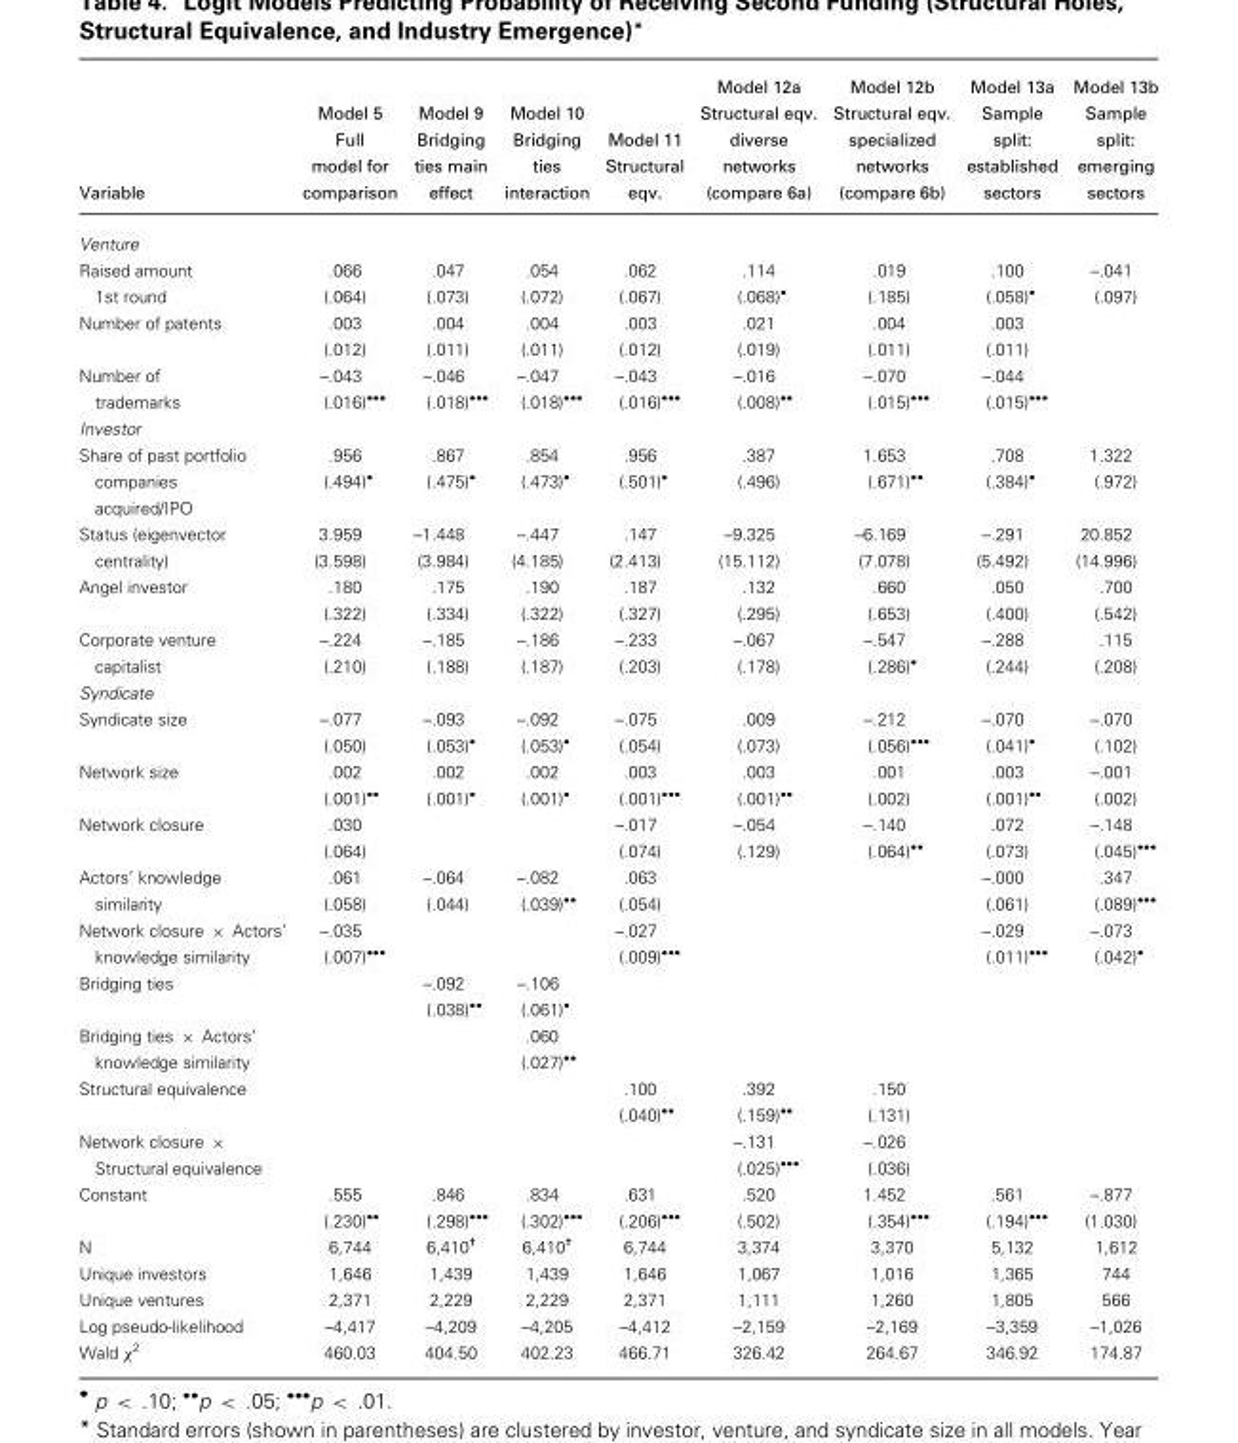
<table><thead><tr><td>Variable</td><td>Model 5 Full model for comparison</td><td>Model 9 Bridging ties main effect</td><td>Model 10 Bridging ties interaction</td><td>Model 11 Structural eqv.</td><td>Model 12a Structural eqv. diverse networks (compare 6a)</td><td>Model 12b Structural eqv. specialized networks (compare 6b)</td><td>Model 13a Sample split: established sectors</td><td>Model 13b Sample split: emerging sectors</td></tr></thead><tbody><tr><td colspan="9">Venture</td></tr><tr><td rowspan="2">Raised amount 1st round</td><td>.066</td><td>.047</td><td>.054</td><td>.062</td><td>.114</td><td>.019</td><td>.100</td><td>–.041</td></tr><tr><td>(.064)</td><td>(.073)</td><td>(.072)</td><td>(.067)</td><td>(.068)<sup>•</sup></td><td>(.185)</td><td>(.058)<sup>•</sup></td><td>(.097)</td></tr><tr><td rowspan="2">Number of patents</td><td>.003</td><td>.004</td><td>.004</td><td>.003</td><td>.021</td><td>.004</td><td>.003</td><td></td></tr><tr><td>(.012)</td><td>(.011)</td><td>(.011)</td><td>(.012)</td><td>(.019)</td><td>(.011)</td><td>(.011)</td><td></td></tr><tr><td rowspan="2">Number of trademarks</td><td>–.043</td><td>–.046</td><td>–.047</td><td>–.043</td><td>–.016</td><td>–.070</td><td>–.044</td><td></td></tr><tr><td>(.016)<sup>•••</sup></td><td>(.018)<sup>•••</sup></td><td>(.018)<sup>•••</sup></td><td>(.016)<sup>•••</sup></td><td>(.008)<sup>••</sup></td><td>(.015)<sup>•••</sup></td><td>(.015)<sup>•••</sup></td><td></td></tr><tr><td colspan="9">Investor</td></tr><tr><td rowspan="2">Share of past portfolio companies acquired/IPO</td><td>.956</td><td>.867</td><td>.854</td><td>.956</td><td>.387</td><td>1.653</td><td>.708</td><td>1.322</td></tr><tr><td>(.494)<sup>•</sup></td><td>(.475)<sup>•</sup></td><td>(.473)<sup>•</sup></td><td>(.501)<sup>•</sup></td><td>(.496)</td><td>(.671)<sup>••</sup></td><td>(.384)<sup>•</sup></td><td>(.972)</td></tr><tr><td rowspan="2">Status (eigenvector centrality)</td><td>3.959</td><td>–1.448</td><td>–.447</td><td>.147</td><td>–9.325</td><td>–6.169</td><td>–.291</td><td>20.852</td></tr><tr><td>(3.598)</td><td>(3.984)</td><td>(4.185)</td><td>(2.413)</td><td>(15.112)</td><td>(7.078)</td><td>(5.492)</td><td>(14.996)</td></tr><tr><td rowspan="2">Angel investor</td><td>.180</td><td>.175</td><td>.190</td><td>.187</td><td>.132</td><td>.660</td><td>.050</td><td>.700</td></tr><tr><td>(.322)</td><td>(.334)</td><td>(.322)</td><td>(.327)</td><td>(.295)</td><td>(.653)</td><td>(.400)</td><td>(.542)</td></tr><tr><td rowspan="2">Corporate venture capitalist</td><td>–.224</td><td>–.185</td><td>–.186</td><td>–.233</td><td>–.067</td><td>–.547</td><td>–.288</td><td>.115</td></tr><tr><td>(.210)</td><td>(.188)</td><td>(.187)</td><td>(.203)</td><td>(.178)</td><td>(.286)<sup>•</sup></td><td>(.244)</td><td>(.208)</td></tr><tr><td colspan="9">Syndicate</td></tr><tr><td rowspan="2">Syndicate size</td><td>–.077</td><td>–.093</td><td>–.092</td><td>–.075</td><td>.009</td><td>–.212</td><td>–.070</td><td>–.070</td></tr><tr><td>(.050)</td><td>(.053)<sup>•</sup></td><td>(.053)<sup>•</sup></td><td>(.054)</td><td>(.073)</td><td>(.056)<sup>•••</sup></td><td>(.041)<sup>•</sup></td><td>(.102)</td></tr><tr><td rowspan="2">Network size</td><td>.002</td><td>.002</td><td>.002</td><td>.003</td><td>.003</td><td>.001</td><td>.003</td><td>–.001</td></tr><tr><td>(.001)<sup>••</sup></td><td>(.001)<sup>•</sup></td><td>(.001)<sup>•</sup></td><td>(.001)<sup>•••</sup></td><td>(.001)<sup>••</sup></td><td>(.002)</td><td>(.001)<sup>••</sup></td><td>(.002)</td></tr><tr><td rowspan="2">Network closure</td><td>.030</td><td></td><td></td><td>–.017</td><td>–.054</td><td>–.140</td><td>.072</td><td>–.148</td></tr><tr><td>(.064)</td><td></td><td></td><td>(.074)</td><td>(.129)</td><td>(.064)<sup>••</sup></td><td>(.073)</td><td>(.045)<sup>•••</sup></td></tr><tr><td rowspan="2">Actors’ knowledge similarity</td><td>.061</td><td>–.064</td><td>–.082</td><td>.063</td><td></td><td></td><td>–.000</td><td>.347</td></tr><tr><td>(.058)</td><td>(.044)</td><td>(.039)<sup>••</sup></td><td>(.054)</td><td></td><td></td><td>(.061)</td><td>(.089)<sup>•••</sup></td></tr><tr><td rowspan="2">Network closure × Actors’ knowledge similarity</td><td>–.035</td><td></td><td></td><td>–.027</td><td></td><td></td><td>–.029</td><td>–.073</td></tr><tr><td>(.007)<sup>•••</sup></td><td></td><td></td><td>(.009)<sup>•••</sup></td><td></td><td></td><td>(.011)<sup>•••</sup></td><td>(.042)<sup>•</sup></td></tr><tr><td rowspan="2">Bridging ties</td><td></td><td>–.092</td><td>–.106</td><td></td><td></td><td></td><td></td><td></td></tr><tr><td></td><td>(.038)<sup>••</sup></td><td>(.061)<sup>•</sup></td><td></td><td></td><td></td><td></td><td></td></tr><tr><td rowspan="2">Bridging ties × Actors’ knowledge similarity</td><td></td><td></td><td>.060</td><td></td><td></td><td></td><td></td><td></td></tr><tr><td></td><td></td><td>(.027)<sup>••</sup></td><td></td><td></td><td></td><td></td><td></td></tr><tr><td rowspan="2">Structural equivalence</td><td></td><td></td><td></td><td>.100</td><td>.392</td><td>.150</td><td></td><td></td></tr><tr><td></td><td></td><td></td><td>(.040)<sup>••</sup></td><td>(.159)<sup>••</sup></td><td>(.131)</td><td></td><td></td></tr><tr><td rowspan="2">Network closure × Structural equivalence</td><td></td><td></td><td></td><td></td><td>–.131</td><td>–.026</td><td></td><td></td></tr><tr><td></td><td></td><td></td><td></td><td>(.025)<sup>•••</sup></td><td>(.036)</td><td></td><td></td></tr><tr><td rowspan="2">Constant</td><td>.555</td><td>.846</td><td>.834</td><td>.631</td><td>.520</td><td>1.452</td><td>.561</td><td>–.877</td></tr><tr><td>(.230)<sup>••</sup></td><td>(.298)<sup>•••</sup></td><td>(.302)<sup>•••</sup></td><td>(.206)<sup>•••</sup></td><td>(.502)</td><td>(.354)<sup>•••</sup></td><td>(.194)<sup>•••</sup></td><td>(1.030)</td></tr><tr><td>N</td><td>6,744</td><td>6,410<sup>†</sup></td><td>6,410<sup>†</sup></td><td>6,744</td><td>3,374</td><td>3,370</td><td>5,132</td><td>1,612</td></tr><tr><td>Unique investors</td><td>1,646</td><td>1,439</td><td>1,439</td><td>1,646</td><td>1,067</td><td>1,016</td><td>1,365</td><td>744</td></tr><tr><td>Unique ventures</td><td>2,371</td><td>2,229</td><td>2,229</td><td>2,371</td><td>1,111</td><td>1,260</td><td>1,805</td><td>566</td></tr><tr><td>Log pseudo-likelihood</td><td>–4,417</td><td>–4,209</td><td>–4,205</td><td>–4,412</td><td>–2,159</td><td>–2,169</td><td>–3,359</td><td>–1,026</td></tr><tr><td>Wald χ<sup>2</sup></td><td>460.03</td><td>404.50</td><td>402.23</td><td>466.71</td><td>326.42</td><td>264.67</td><td>346.92</td><td>174.87</td></tr></tbody></table>